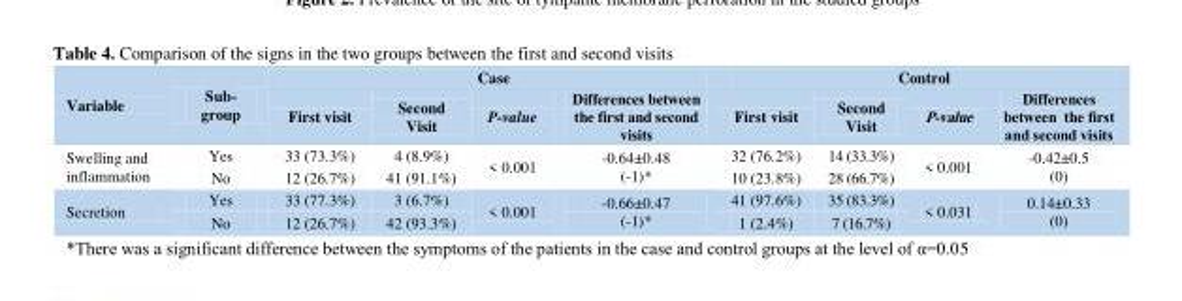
<table><thead><tr><td rowspan="2">Variable</td><td rowspan="2">Sub- group</td><td colspan="4">Case</td><td colspan="4">Control</td></tr><tr><td>First visit</td><td>Second Visit</td><td>P-value</td><td>Differences between the first and second visits</td><td>First visit</td><td>Second Visit</td><td>P-value</td><td>Differences between the first and second visits</td></tr></thead><tbody><tr><td rowspan="2">Swelling and inflammation</td><td>Yes</td><td>33 (73.3%)</td><td>4 (8.9%)</td><td rowspan="2">&lt; 0.001</td><td rowspan="2">-0.64±0.48 (-1)*</td><td>32 (76.2%)</td><td>14 (33.3%)</td><td rowspan="2">&lt; 0.001</td><td rowspan="2">-0.42±0.5 (0)</td></tr><tr><td>No</td><td>12 (26.7%)</td><td>41 (91.1%)</td><td>10 (23.8%)</td><td>28 (66.7%)</td></tr><tr><td rowspan="2">Secretion</td><td>Yes</td><td>33 (77.3%)</td><td>3 (6.7%)</td><td rowspan="2">&lt; 0.001</td><td rowspan="2">-0.66±0.47 (-1)*</td><td>41 (97.6%)</td><td>35 (83.3%)</td><td rowspan="2">&lt; 0.031</td><td rowspan="2">0.14±0.33 (0)</td></tr><tr><td>No</td><td>12 (26.7%)</td><td>42 (93.3%)</td><td>1 (2.4%)</td><td>7 (16.7%)</td></tr></tbody></table>